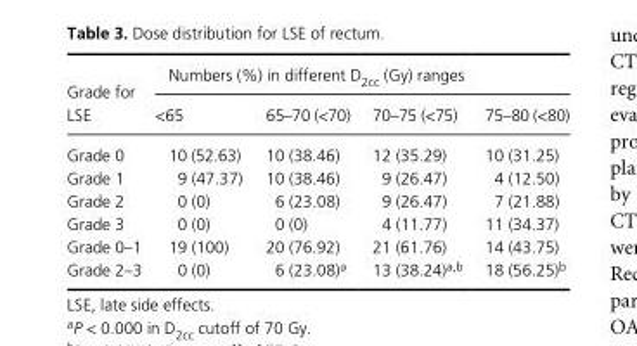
<table><thead><tr><td rowspan="2">Grade for LSE</td><td colspan="4">Numbers (%) in different D<sub>2cc</sub> (Gy) ranges</td></tr><tr><td>&lt;65</td><td>65–70 (&lt;70)</td><td>70–75 (&lt;75)</td><td>75–80 (&lt;80)</td></tr></thead><tbody><tr><td>Grade 0</td><td>10 (52.63)</td><td>10 (38.46)</td><td>12 (35.29)</td><td>10 (31.25)</td></tr><tr><td>Grade 1</td><td>9 (47.37)</td><td>10 (38.46)</td><td>9 (26.47)</td><td>4 (12.50)</td></tr><tr><td>Grade 2</td><td>0 (0)</td><td>6 (23.08)</td><td>9 (26.47)</td><td>7 (21.88)</td></tr><tr><td>Grade 3</td><td>0 (0)</td><td>0 (0)</td><td>4 (11.77)</td><td>11 (34.37)</td></tr><tr><td>Grade 0–1</td><td>19 (100)</td><td>20 (76.92)</td><td>21 (61.76)</td><td>14 (43.75)</td></tr><tr><td>Grade 2–3</td><td>0 (0)</td><td>6 (23.08)<sup>a</sup></td><td>13 (38.24)<sup>a,</sup>b</td><td>18 (56.25)<sup>b</sup></td></tr></tbody></table>